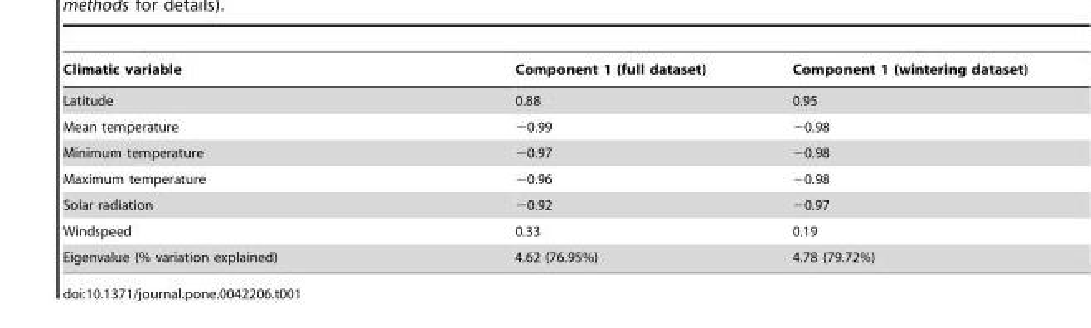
<table><thead><tr><td>Climatic variable</td><td>Component 1 (full dataset)</td><td>Component 1 (wintering dataset)</td></tr></thead><tbody><tr><td>Latitude</td><td>0.88</td><td>0.95</td></tr><tr><td>Mean temperature</td><td>−0.99</td><td>−0.98</td></tr><tr><td>Minimum temperature</td><td>−0.97</td><td>−0.98</td></tr><tr><td>Maximum temperature</td><td>−0.96</td><td>−0.98</td></tr><tr><td>Solar radiation</td><td>−0.92</td><td>−0.97</td></tr><tr><td>Windspeed</td><td>0.33</td><td>0.19</td></tr><tr><td>Eigenvalue (% variation explained)</td><td>4.62 (76.95%)</td><td>4.78 (79.72%)</td></tr></tbody></table>